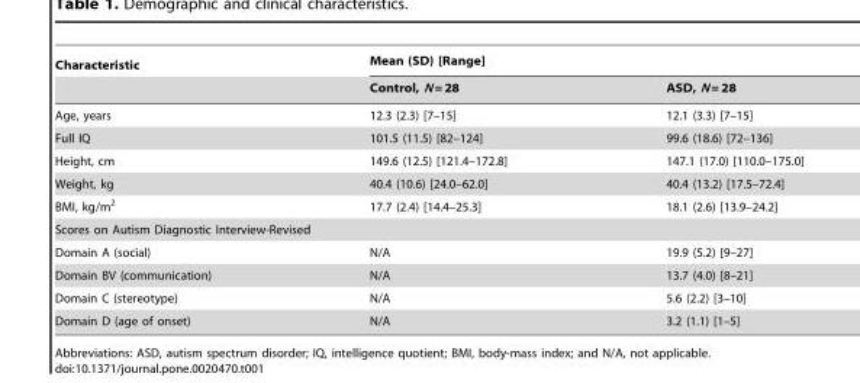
<table><thead><tr><td rowspan="2">Characteristic</td><td colspan="2">Mean (SD) [Range]</td></tr><tr><td>Control, N = 28</td><td>ASD, N = 28</td></tr></thead><tbody><tr><td>Age, years</td><td>12.3 (2.3) [7–15]</td><td>12.1 (3.3) [7–15]</td></tr><tr><td>Full IQ</td><td>101.5 (11.5) [82–124]</td><td>99.6 (18.6) [72–136]</td></tr><tr><td>Height, cm</td><td>149.6 (12.5) [121.4–172.8]</td><td>147.1 (17.0) [110.0–175.0]</td></tr><tr><td>Weight, kg</td><td>40.4 (10.6) [24.0–62.0]</td><td>40.4 (13.2) [17.5–72.4]</td></tr><tr><td>BMI, kg/m<sup>2</sup></td><td>17.7 (2.4) [14.4–25.3]</td><td>18.1 (2.6) [13.9–24.2]</td></tr><tr><td colspan="3">Scores on Autism Diagnostic Interview-Revised</td></tr><tr><td>Domain A (social)</td><td>N/A</td><td>19.9 (5.2) [9–27]</td></tr><tr><td>Domain BV (communication)</td><td>N/A</td><td>13.7 (4.0) [8–21]</td></tr><tr><td>Domain C (stereotype)</td><td>N/A</td><td>5.6 (2.2) [3–10]</td></tr><tr><td>Domain D (age of onset)</td><td>N/A</td><td>3.2 (1.1) [1–5]</td></tr></tbody></table>